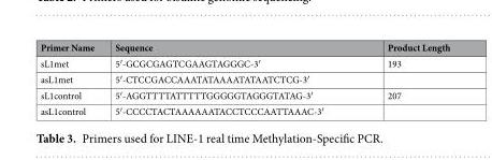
<table><thead><tr><td>Primer Name</td><td>Sequence</td><td>Product Length</td></tr></thead><tbody><tr><td>sL1met</td><td>5′-GCGCGAGTCGAAGTAGGGC-3′</td><td>193</td></tr><tr><td>asL1met</td><td>5′-CTCCGACCAAATATAAAATATAATCTCG-3′</td><td></td></tr><tr><td>sL1control</td><td>5′-AGGTTTTATTTTTGGGGGTAGGGTATAG-3′</td><td>207</td></tr><tr><td>asL1control</td><td>5′-CCCCTACTAAAAAATACCTCCCAATTAAAC-3′</td><td></td></tr></tbody></table>